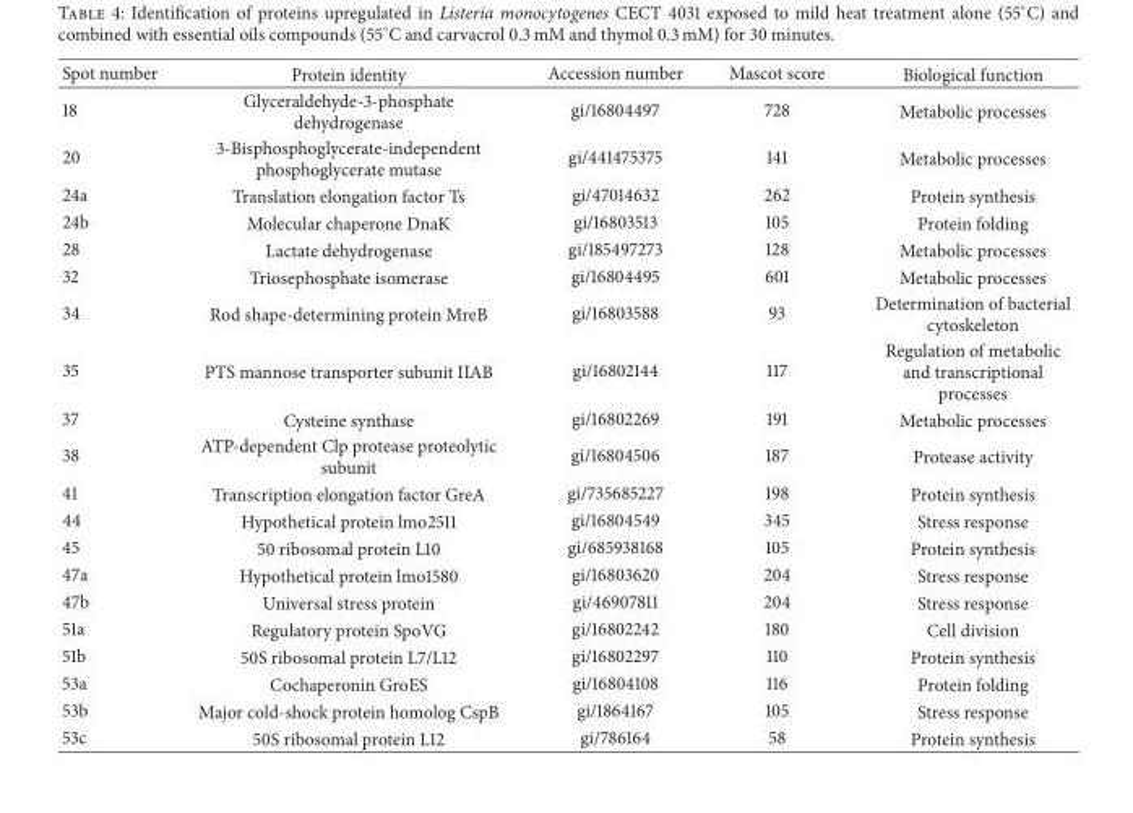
<table><thead><tr><td>Spot number</td><td>Protein identity</td><td>Accession number</td><td>Mascot score</td><td>Biological function</td></tr></thead><tbody><tr><td>18</td><td>Glyceraldehyde-3-phosphate dehydrogenase</td><td>gi/16804497</td><td>728</td><td>Metabolic processes</td></tr><tr><td>20</td><td>3-Bisphosphoglycerate-independent phosphoglycerate mutase</td><td>gi/441475375</td><td>141</td><td>Metabolic processes</td></tr><tr><td>24a</td><td>Translation elongation factor Ts</td><td>gi/47014632</td><td>262</td><td>Protein synthesis</td></tr><tr><td>24b</td><td>Molecular chaperone DnaK</td><td>gi/16803513</td><td>105</td><td>Protein folding</td></tr><tr><td>28</td><td>Lactate dehydrogenase</td><td>gi/185497273</td><td>128</td><td>Metabolic processes</td></tr><tr><td>32</td><td>Triosephosphate isomerase</td><td>gi/16804495</td><td>601</td><td>Metabolic processes</td></tr><tr><td>34</td><td>Rod shape-determining protein MreB</td><td>gi/16803588</td><td>93</td><td>Determination of bacterial cytoskeleton</td></tr><tr><td>35</td><td>PTS mannose transporter subunit IIAB</td><td>gi/16802144</td><td>117</td><td>Regulation of metabolic and transcriptional processes</td></tr><tr><td>37</td><td>Cysteine synthase</td><td>gi/16802269</td><td>191</td><td>Metabolic processes</td></tr><tr><td>38</td><td>ATP-dependent Clp protease proteolytic subunit</td><td>gi/16804506</td><td>187</td><td>Protease activity</td></tr><tr><td>41</td><td>Transcription elongation factor GreA</td><td>gi/735685227</td><td>198</td><td>Protein synthesis</td></tr><tr><td>44</td><td>Hypothetical protein lmo2511</td><td>gi/16804549</td><td>345</td><td>Stress response</td></tr><tr><td>45</td><td>50 ribosomal protein L10</td><td>gi/685938168</td><td>105</td><td>Protein synthesis</td></tr><tr><td>47a</td><td>Hypothetical protein lmo1580</td><td>gi/16803620</td><td>204</td><td>Stress response</td></tr><tr><td>47b</td><td>Universal stress protein</td><td>gi/46907811</td><td>204</td><td>Stress response</td></tr><tr><td>51a</td><td>Regulatory protein SpoVG</td><td>gi/16802242</td><td>180</td><td>Cell division</td></tr><tr><td>51b</td><td>50S ribosomal protein L7/L12</td><td>gi/16802297</td><td>110</td><td>Protein synthesis</td></tr><tr><td>53a</td><td>Cochaperonin GroES</td><td>gi/16804108</td><td>116</td><td>Protein folding</td></tr><tr><td>53b</td><td>Major cold-shock protein homolog CspB</td><td>gi/1864167</td><td>105</td><td>Stress response</td></tr><tr><td>53c</td><td>50S ribosomal protein L12</td><td>gi/786164</td><td>58</td><td>Protein synthesis</td></tr></tbody></table>